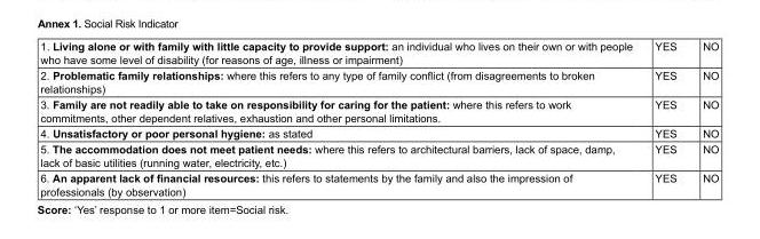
<table><tbody><tr><td>1. Living alone or with family with little capacity to provide support: an individual who lives on their own or with people who have some level of disability (for reasons of age, illness or impairment)</td><td>YES</td><td>NO</td></tr><tr><td>2. Problematic family relationships: where this refers to any type of family conflict (from disagreements to broken relationships)</td><td>YES</td><td>NO</td></tr><tr><td>3. Family are not readily able to take on responsibility for caring for the patient: where this refers to work commitments, other dependent relatives, exhaustion and other personal limitations.</td><td>YES</td><td>NO</td></tr><tr><td>4. Unsatisfactory or poor personal hygiene: as stated</td><td>YES</td><td>NO</td></tr><tr><td>5. The accommodation does not meet patient needs: where this refers to architectural barriers, lack of space, damp, lack of basic utilities (running water, electricity, etc.)</td><td>YES</td><td>NO</td></tr><tr><td>6. An apparent lack of financial resources: this refers to statements by the family and also the impression of professionals (by observation)</td><td>YES</td><td>NO</td></tr></tbody></table>